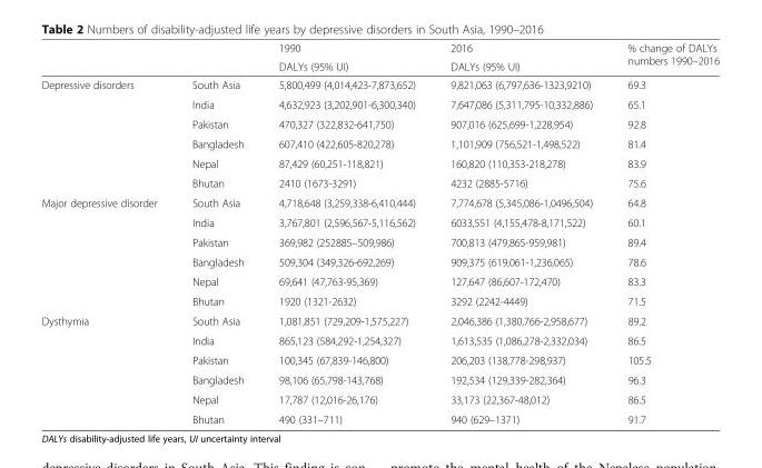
<table><thead><tr><td rowspan="2"></td><td rowspan="2"></td><td rowspan="2">1990 DALYs (95% UI)</td><td rowspan="2">2016 DALYs (95% UI)</td><td rowspan="2">% change of DALYs numbers 1990–2016</td></tr><tr></tr></thead><tbody><tr><td rowspan="6">Depressive disorders</td><td>South Asia</td><td>5,800,499 (4,014,423-7,873,652)</td><td>9,821,063 (6,797,636-1323,9210)</td><td>69.3</td></tr><tr><td>India</td><td>4,632,923 (3,202,901-6,300,340)</td><td>7,647,086 (5,311,795-10,332,886)</td><td>65.1</td></tr><tr><td>Pakistan</td><td>470,327 (322,832-641,750)</td><td>907,016 (625,699-1,228,954)</td><td>92.8</td></tr><tr><td>Bangladesh</td><td>607,410 (422,605-820,278)</td><td>1,101,909 (756,521-1,498,522)</td><td>81.4</td></tr><tr><td>Nepal</td><td>87,429 (60,251-118,821)</td><td>160,820 (110,353-218,278)</td><td>83.9</td></tr><tr><td>Bhutan</td><td>2410 (1673-3291)</td><td>4232 (2885-5716)</td><td>75.6</td></tr><tr><td rowspan="6">Major depressive disorder</td><td>South Asia</td><td>4,718,648 (3,259,338-6,410,444)</td><td>7,774,678 (5,345,086-1,0496,504)</td><td>64.8</td></tr><tr><td>India</td><td>3,767,801 (2,596,567-5,116,562)</td><td>6033,551 (4,155,478-8,171,522)</td><td>60.1</td></tr><tr><td>Pakistan</td><td>369,982 (252885–509,986)</td><td>700,813 (479,865-959,981)</td><td>89.4</td></tr><tr><td>Bangladesh</td><td>509,304 (349,326-692,269)</td><td>909,375 (619,061-1,236,065)</td><td>78.6</td></tr><tr><td>Nepal</td><td>69,641 (47,763-95,369)</td><td>127,647 (86,607-172,470)</td><td>83.3</td></tr><tr><td>Bhutan</td><td>1920 (1321-2632)</td><td>3292 (2242-4449)</td><td>71.5</td></tr><tr><td rowspan="6">Dysthymia</td><td>South Asia</td><td>1,081,851 (729,209-1,575,227)</td><td>2,046,386 (1,380,766-2,958,677)</td><td>89.2</td></tr><tr><td>India</td><td>865,123 (584,292-1,254,327)</td><td>1,613,535 (1,086,278-2,332,034)</td><td>86.5</td></tr><tr><td>Pakistan</td><td>100,345 (67,839-146,800)</td><td>206,203 (138,778-298,937)</td><td>105.5</td></tr><tr><td>Bangladesh</td><td>98,106 (65,798-143,768)</td><td>192,534 (129,339-282,364)</td><td>96.3</td></tr><tr><td>Nepal</td><td>17,787 (12,016-26,176)</td><td>33,173 (22,367-48,012)</td><td>86.5</td></tr><tr><td>Bhutan</td><td>490 (331–711)</td><td>940 (629–1371)</td><td>91.7</td></tr></tbody></table>